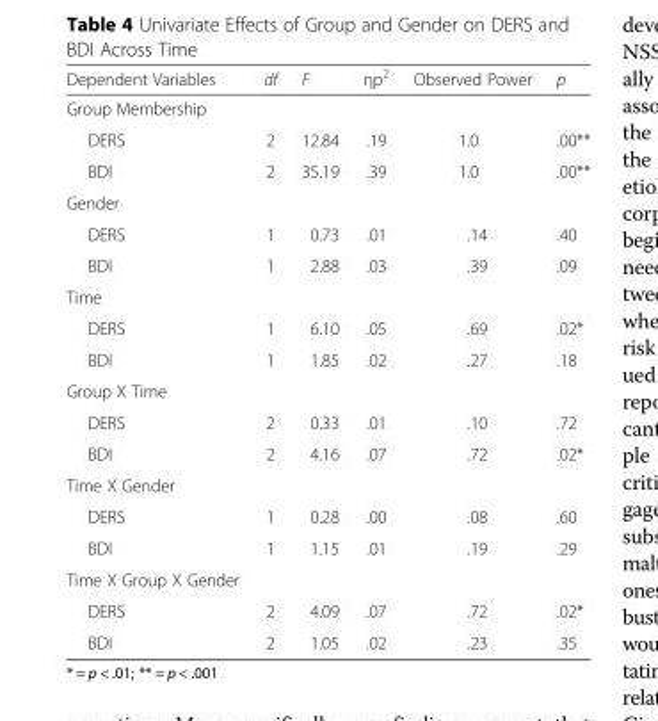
<table><thead><tr><td>Dependent Variables</td><td>df</td><td>F</td><td>ηp<sup>2</sup></td><td>Observed Power</td><td>p</td></tr></thead><tbody><tr><td colspan="6">Group Membership</td></tr><tr><td>DERS</td><td>2</td><td>12.84</td><td>.19</td><td>1.0</td><td>.00**</td></tr><tr><td>BDI</td><td>2</td><td>35.19</td><td>.39</td><td>1.0</td><td>.00**</td></tr><tr><td colspan="6">Gender</td></tr><tr><td>DERS</td><td>1</td><td>0.73</td><td>.01</td><td>.14</td><td>.40</td></tr><tr><td>BDI</td><td>1</td><td>2.88</td><td>.03</td><td>.39</td><td>.09</td></tr><tr><td colspan="6">Time</td></tr><tr><td>DERS</td><td>1</td><td>6.10</td><td>.05</td><td>.69</td><td>.02*</td></tr><tr><td>BDI</td><td>1</td><td>1.85</td><td>.02</td><td>.27</td><td>.18</td></tr><tr><td colspan="6">Group X Time</td></tr><tr><td>DERS</td><td>2</td><td>0.33</td><td>.01</td><td>.10</td><td>.72</td></tr><tr><td>BDI</td><td>2</td><td>4.16</td><td>.07</td><td>.72</td><td>.02*</td></tr><tr><td colspan="6">Time X Gender</td></tr><tr><td>DERS</td><td>1</td><td>0.28</td><td>.00</td><td>.08</td><td>.60</td></tr><tr><td>BDI</td><td>1</td><td>1.15</td><td>.01</td><td>.19</td><td>.29</td></tr><tr><td colspan="6">Time X Group X Gender</td></tr><tr><td>DERS</td><td>2</td><td>4.09</td><td>.07</td><td>.72</td><td>.02*</td></tr><tr><td>BDI</td><td>2</td><td>1.05</td><td>.02</td><td>.23</td><td>.35</td></tr></tbody></table>